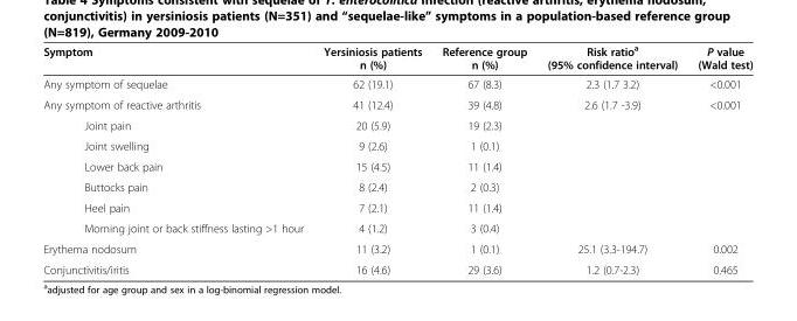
<table><thead><tr><td>Symptom</td><td>Yersiniosis patients n (%)</td><td>Reference group n (%)</td><td>Risk ratio<sup>a</sup> (95% confidence interval)</td><td>P value (Wald test)</td></tr></thead><tbody><tr><td>Any symptom of sequelae</td><td>62 (19.1)</td><td>67 (8.3)</td><td>2.3 (1.7 3.2)</td><td>&lt;0.001</td></tr><tr><td>Any symptom of reactive arthritis</td><td>41 (12.4)</td><td>39 (4.8)</td><td>2.6 (1.7 -3.9)</td><td>&lt;0.001</td></tr><tr><td>Joint pain</td><td>20 (5.9)</td><td>19 (2.3)</td><td></td><td></td></tr><tr><td>Joint swelling</td><td>9 (2.6)</td><td>1 (0.1)</td><td></td><td></td></tr><tr><td>Lower back pain</td><td>15 (4.5)</td><td>11 (1.4)</td><td></td><td></td></tr><tr><td>Buttocks pain</td><td>8 (2.4)</td><td>2 (0.3)</td><td></td><td></td></tr><tr><td>Heel pain</td><td>7 (2.1)</td><td>11 (1.4)</td><td></td><td></td></tr><tr><td>Morning joint or back stiffness lasting &gt;1 hour</td><td>4 (1.2)</td><td>3 (0.4)</td><td></td><td></td></tr><tr><td>Erythema nodosum</td><td>11 (3.2)</td><td>1 (0.1)</td><td>25.1 (3.3-194.7)</td><td>0.002</td></tr><tr><td>Conjunctivitis/iritis</td><td>16 (4.6)</td><td>29 (3.6)</td><td>1.2 (0.7-2.3)</td><td>0.465</td></tr></tbody></table>